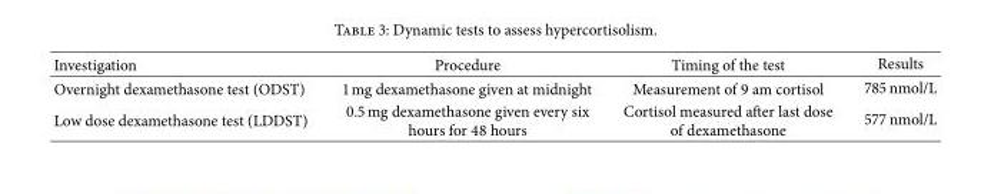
<table><thead><tr><td>Investigation</td><td>Procedure</td><td>Timing of the test</td><td>Results</td></tr></thead><tbody><tr><td>Overnight dexamethasone test (ODST)</td><td>1 mg dexamethasone given at midnight</td><td>Measurement of 9 am cortisol</td><td>785 nmol/L</td></tr><tr><td>Low dose dexamethasone test (LDDST)</td><td>0.5 mg dexamethasone given every six hours for 48 hours</td><td>Cortisol measured after last dose of dexamethasone</td><td>577 nmol/L</td></tr></tbody></table>